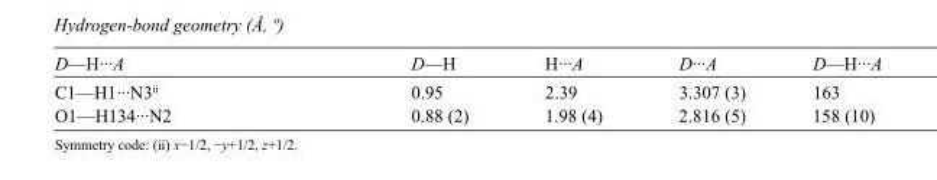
<table><tbody><tr><td>D—H···A</td><td>D—H</td><td>H···A</td><td>D···A</td><td>D—H···A</td></tr><tr><td>C1—H1···N3<sup>ii</sup></td><td>0.95</td><td>2.39</td><td>3.307 (3)</td><td>163</td></tr><tr><td>O1—H134···N2</td><td>0.88 (2)</td><td>1.98 (4)</td><td>2.816 (5)</td><td>158 (10)</td></tr></tbody></table>